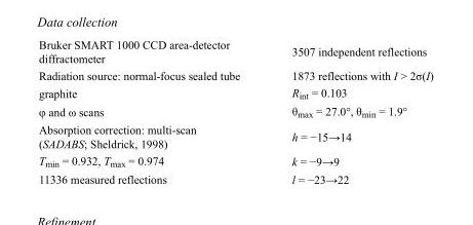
<table><tbody><tr><td>Bruker SMART 1000 CCD area-detector diffractometer</td><td>3507 independent reflections</td></tr><tr><td>Radiation source: normal-focus sealed tube</td><td>1873 reflections with I &gt; 2σ(I)</td></tr><tr><td>graphite</td><td>R<sub>int</sub> = 0.103</td></tr><tr><td>φ and ω scans</td><td>θ<sub>max</sub> = 27.0°, θ<sub>min</sub> = 1.9°</td></tr><tr><td>Absorption correction: multi-scan (SADABS; Sheldrick, 1998)</td><td>h = −15→14</td></tr><tr><td>T<sub>min</sub> = 0.932, T<sub>max</sub> = 0.974</td><td>k = −9→9</td></tr><tr><td>11336 measured reflections</td><td>l = −23→22</td></tr></tbody></table>